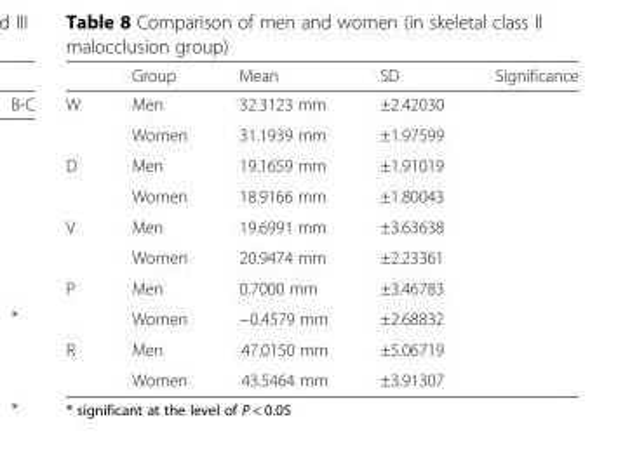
<table><thead><tr><td></td><td>Group</td><td>Mean</td><td>SD</td><td>Significance</td></tr></thead><tbody><tr><td rowspan="2">W</td><td>Men</td><td>32.3123 mm</td><td>±2.42030</td><td rowspan="2"></td></tr><tr><td>Women</td><td>31.1939 mm</td><td>±1.97599</td></tr><tr><td rowspan="2">D</td><td>Men</td><td>19.1659 mm</td><td>±1.91019</td><td rowspan="2"></td></tr><tr><td>Women</td><td>18.9166 mm</td><td>±1.80043</td></tr><tr><td rowspan="2">V</td><td>Men</td><td>19.6991 mm</td><td>±3.63638</td><td rowspan="2"></td></tr><tr><td>Women</td><td>20.9474 mm</td><td>±2.23361</td></tr><tr><td rowspan="2">P</td><td>Men</td><td>0.7000 mm</td><td>±3.46783</td><td rowspan="2"></td></tr><tr><td>Women</td><td>−0.4579 mm</td><td>±2.68832</td></tr><tr><td rowspan="2">R</td><td>Men</td><td>47.0150 mm</td><td>±5.06719</td><td rowspan="2"></td></tr><tr><td>Women</td><td>43.5464 mm</td><td>±3.91307</td></tr></tbody></table>